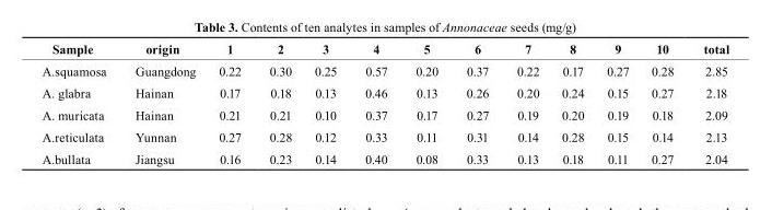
<table><thead><tr><td>sample</td><td>origin</td><td>1</td><td>2</td><td>3</td><td>4</td><td>5</td><td>6</td><td>7</td><td>8</td><td>9</td><td>10</td><td>total</td></tr></thead><tbody><tr><td>A.squamosa</td><td>Guangdong</td><td>0.22</td><td>0.30</td><td>0.25</td><td>0.57</td><td>0.20</td><td>0.37</td><td>0.22</td><td>0.17</td><td>0.27</td><td>0.28</td><td>2.85</td></tr><tr><td>A. glabra</td><td>Hainan</td><td>0.17</td><td>0.18</td><td>0.13</td><td>0.46</td><td>0.13</td><td>0.26</td><td>0.20</td><td>0.24</td><td>0.15</td><td>0.27</td><td>2.18</td></tr><tr><td>A. muricata</td><td>Hainan</td><td>0.21</td><td>0.21</td><td>0.10</td><td>0.37</td><td>0.17</td><td>0.27</td><td>0.19</td><td>0.20</td><td>0.19</td><td>0.18</td><td>2.09</td></tr><tr><td>A.reticulata</td><td>Yunnan</td><td>0.27</td><td>0.28</td><td>0.12</td><td>0.33</td><td>0.11</td><td>0.31</td><td>0.14</td><td>0.28</td><td>0.15</td><td>0.14</td><td>2.13</td></tr><tr><td>A.bullata</td><td>Jiangsu</td><td>0.16</td><td>0.23</td><td>0.14</td><td>0.40</td><td>0.08</td><td>0.33</td><td>0.13</td><td>0.18</td><td>0.11</td><td>0.27</td><td>2.04</td></tr></tbody></table>